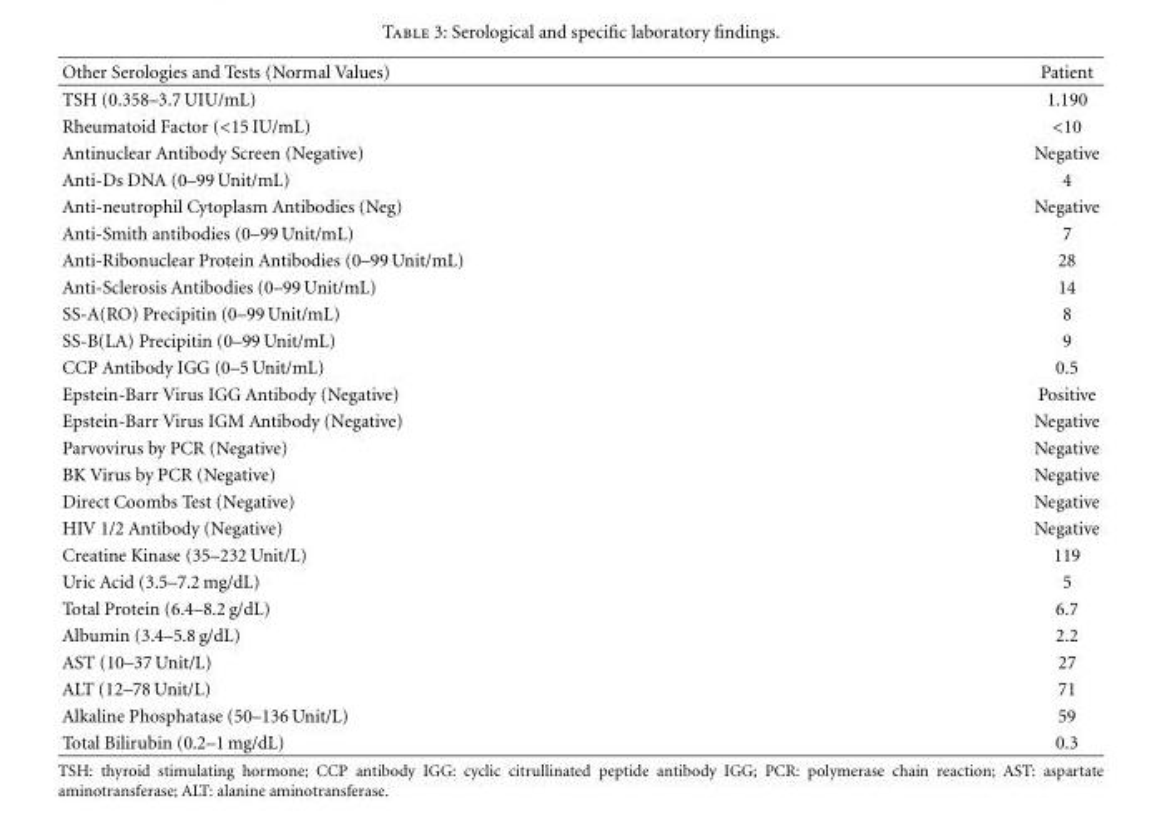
<table><thead><tr><td>Other Serologies and Tests (Normal Values)</td><td>Patient</td></tr></thead><tbody><tr><td>TSH (0.358–3.7 UIU/mL)</td><td>1.190</td></tr><tr><td>Rheumatoid Factor (&lt;15 IU/mL)</td><td>&lt;10</td></tr><tr><td>Antinuclear Antibody Screen (Negative)</td><td>Negative</td></tr><tr><td>Anti-Ds DNA (0–99 Unit/mL)</td><td>4</td></tr><tr><td>Anti-neutrophil Cytoplasm Antibodies (Neg)</td><td>Negative</td></tr><tr><td>Anti-Smith antibodies (0–99 Unit/mL)</td><td>7</td></tr><tr><td>Anti-Ribonuclear Protein Antibodies (0–99 Unit/mL)</td><td>28</td></tr><tr><td>Anti-Sclerosis Antibodies (0–99 Unit/mL)</td><td>14</td></tr><tr><td>SS-A(RO) Precipitin (0–99 Unit/mL)</td><td>8</td></tr><tr><td>SS-B(LA) Precipitin (0–99 Unit/mL)</td><td>9</td></tr><tr><td>CCP Antibody IGG (0–5 Unit/mL)</td><td>0.5</td></tr><tr><td>Epstein-Barr Virus IGG Antibody (Negative)</td><td>Positive</td></tr><tr><td>Epstein-Barr Virus IGM Antibody (Negative)</td><td>Negative</td></tr><tr><td>Parvovirus by PCR (Negative)</td><td>Negative</td></tr><tr><td>BK Virus by PCR (Negative)</td><td>Negative</td></tr><tr><td>Direct Coombs Test (Negative)</td><td>Negative</td></tr><tr><td>HIV 1/2 Antibody (Negative)</td><td>Negative</td></tr><tr><td>Creatine Kinase (35–232 Unit/L)</td><td>119</td></tr><tr><td>Uric Acid (3.5–7.2 mg/dL)</td><td>5</td></tr><tr><td>Total Protein (6.4–8.2 g/dL)</td><td>6.7</td></tr><tr><td>Albumin (3.4–5.8 g/dL)</td><td>2.2</td></tr><tr><td>AST (10–37 Unit/L)</td><td>27</td></tr><tr><td>ALT (12–78 Unit/L)</td><td>71</td></tr><tr><td>Alkaline Phosphatase (50–136 Unit/L)</td><td>59</td></tr><tr><td>Total Bilirubin (0.2–1 mg/dL)</td><td>0.3</td></tr></tbody></table>